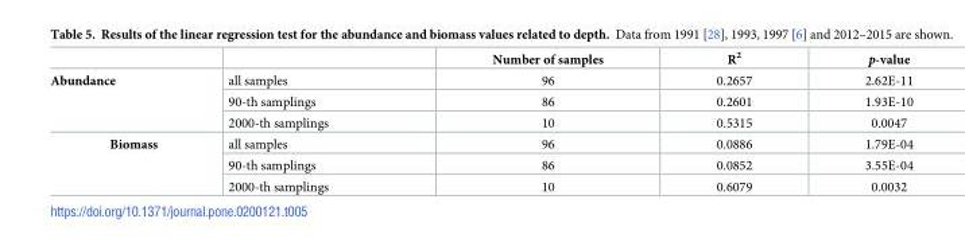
<table><thead><tr><td></td><td></td><td>Number of samples</td><td>R<sup>2</sup></td><td>p-value</td></tr></thead><tbody><tr><td rowspan="3">Abundance</td><td>all samples</td><td>96</td><td>0.2657</td><td>2.62E-11</td></tr><tr><td>90-th samplings</td><td>86</td><td>0.2601</td><td>1.93E-10</td></tr><tr><td>2000-th samplings</td><td>10</td><td>0.5315</td><td>0.0047</td></tr><tr><td rowspan="3">Biomass</td><td>all samples</td><td>96</td><td>0.0886</td><td>1.79E-04</td></tr><tr><td>90-th samplings</td><td>86</td><td>0.0852</td><td>3.55E-04</td></tr><tr><td>2000-th samplings</td><td>10</td><td>0.6079</td><td>0.0032</td></tr></tbody></table>